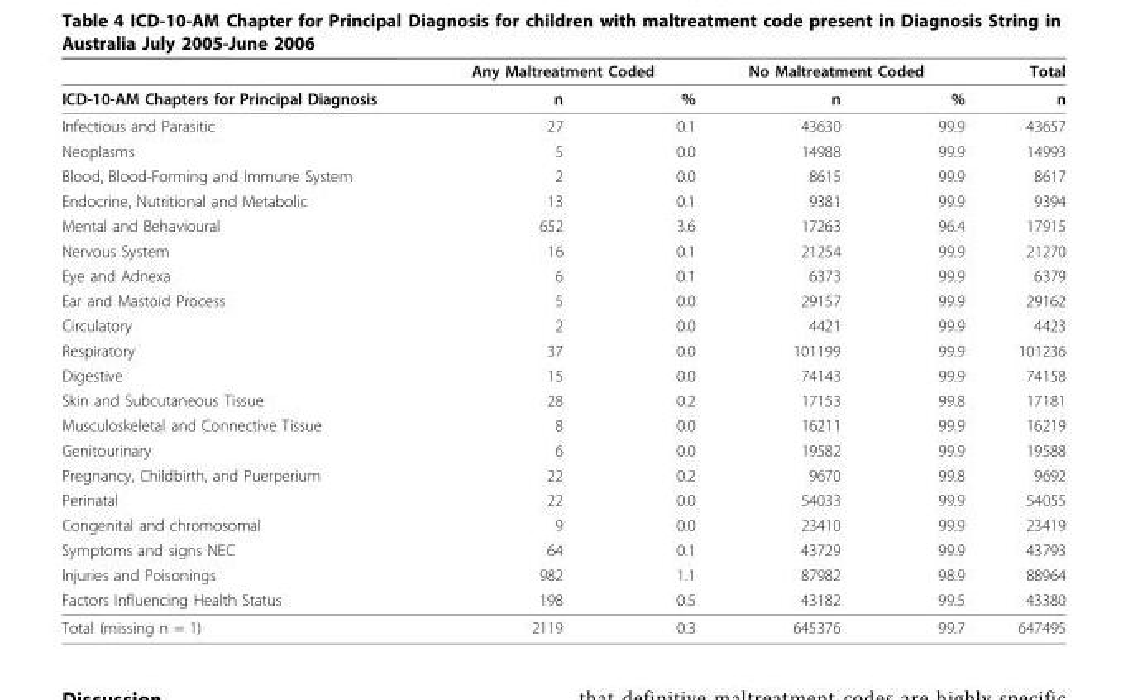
<table><thead><tr><td rowspan="2">ICD-10-AM Chapters for Principal Diagnosis</td><td colspan="2">Any Maltreatment Coded</td><td colspan="2">No Maltreatment Coded</td><td rowspan="2">Total n</td></tr><tr><td>n</td><td>%</td><td>n</td><td>%</td></tr></thead><tbody><tr><td>Infectious and Parasitic</td><td>27</td><td>0.1</td><td>43630</td><td>99.9</td><td>43657</td></tr><tr><td>Neoplasms</td><td>5</td><td>0.0</td><td>14988</td><td>99.9</td><td>14993</td></tr><tr><td>Blood, Blood-Forming and Immune System</td><td>2</td><td>0.0</td><td>8615</td><td>99.9</td><td>8617</td></tr><tr><td>Endocrine, Nutritional and Metabolic</td><td>13</td><td>0.1</td><td>9381</td><td>99.9</td><td>9394</td></tr><tr><td>Mental and Behavioural</td><td>652</td><td>3.6</td><td>17263</td><td>96.4</td><td>17915</td></tr><tr><td>Nervous System</td><td>16</td><td>0.1</td><td>21254</td><td>99.9</td><td>21270</td></tr><tr><td>Eye and Adnexa</td><td>6</td><td>0.1</td><td>6373</td><td>99.9</td><td>6379</td></tr><tr><td>Ear and Mastoid Process</td><td>5</td><td>0.0</td><td>29157</td><td>99.9</td><td>29162</td></tr><tr><td>Circulatory</td><td>2</td><td>0.0</td><td>4421</td><td>99.9</td><td>4423</td></tr><tr><td>Respiratory</td><td>37</td><td>0.0</td><td>101199</td><td>99.9</td><td>101236</td></tr><tr><td>Digestive</td><td>15</td><td>0.0</td><td>74143</td><td>99.9</td><td>74158</td></tr><tr><td>Skin and Subcutaneous Tissue</td><td>28</td><td>0.2</td><td>17153</td><td>99.8</td><td>17181</td></tr><tr><td>Musculoskeletal and Connective Tissue</td><td>8</td><td>0.0</td><td>16211</td><td>99.9</td><td>16219</td></tr><tr><td>Genitourinary</td><td>6</td><td>0.0</td><td>19582</td><td>99.9</td><td>19588</td></tr><tr><td>Pregnancy, Childbirth, and Puerperium</td><td>22</td><td>0.2</td><td>9670</td><td>99.8</td><td>9692</td></tr><tr><td>Perinatal</td><td>22</td><td>0.0</td><td>54033</td><td>99.9</td><td>54055</td></tr><tr><td>Congenital and chromosomal</td><td>9</td><td>0.0</td><td>23410</td><td>99.9</td><td>23419</td></tr><tr><td>Symptoms and signs NEC</td><td>64</td><td>0.1</td><td>43729</td><td>99.9</td><td>43793</td></tr><tr><td>Injuries and Poisonings</td><td>982</td><td>1.1</td><td>87982</td><td>98.9</td><td>88964</td></tr><tr><td>Factors Influencing Health Status</td><td>198</td><td>0.5</td><td>43182</td><td>99.5</td><td>43380</td></tr><tr><td>Total (missing n = 1)</td><td>2119</td><td>0.3</td><td>645376</td><td>99.7</td><td>647495</td></tr></tbody></table>